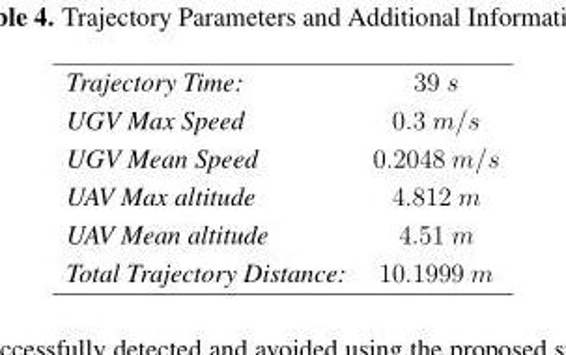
<table><tbody><tr><td>Trajectory Time:</td><td>39 s</td></tr><tr><td>UGV Max Speed</td><td>0.3 m/s</td></tr><tr><td>UGV Mean Speed</td><td>0.2048 m/s</td></tr><tr><td>UAV Max altitude</td><td>4.812 m</td></tr><tr><td>UAV Mean altitude</td><td>4.51 m</td></tr><tr><td>Total Trajectory Distance:</td><td>10.1999 m</td></tr></tbody></table>